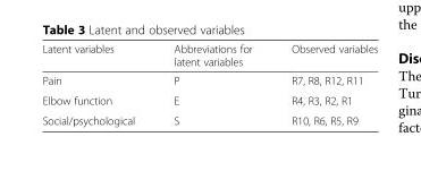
<table><thead><tr><td>Latent variables</td><td>Abbreviations for latent variables</td><td>Observed variables</td></tr></thead><tbody><tr><td>Pain</td><td>P</td><td>R7, R8, R12, R11</td></tr><tr><td>Elbow function</td><td>E</td><td>R4, R3, R2, R1</td></tr><tr><td>Social/psychological</td><td>S</td><td>R10, R6, R5, R9</td></tr></tbody></table>